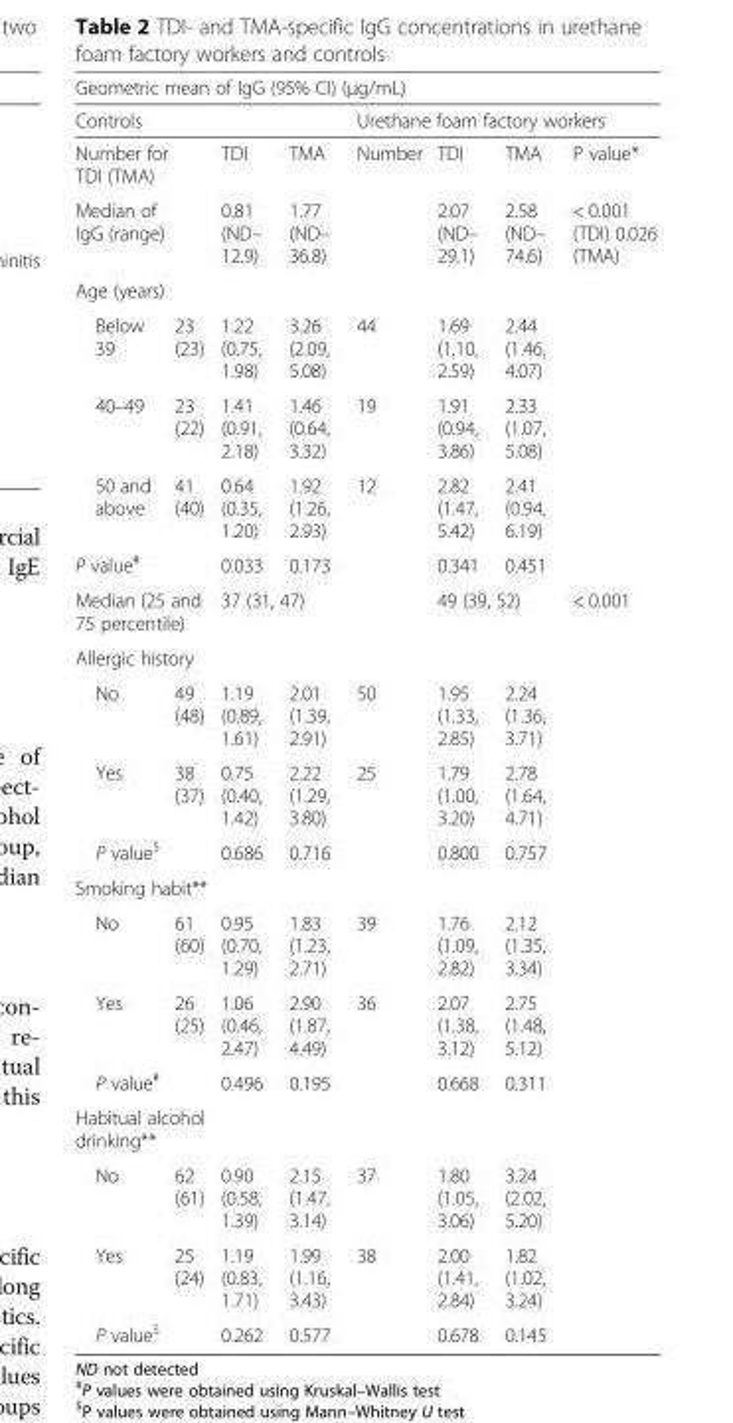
<table><thead><tr><td colspan="8">Geometric mean of IgG (95% CI) (μg/mL)</td></tr><tr><td colspan="4">Controls</td><td colspan="4">Urethane foam factory workers</td></tr></thead><tbody><tr><td colspan="2">Number for TDI (TMA)</td><td>TDI</td><td>TMA</td><td>Number</td><td>TDI</td><td>TMA</td><td>P value*</td></tr><tr><td colspan="2">Median of IgG (range)</td><td>0.81 (ND– 12.9)</td><td>1.77 (ND– 36.8)</td><td></td><td>2.07 (ND– 29.1)</td><td>2.58 (ND– 74.6)</td><td>&lt; 0.001 (TDI) 0.026 (TMA)</td></tr><tr><td colspan="8">Age (years)</td></tr><tr><td>Below 39</td><td>23 (23)</td><td>1.22 (0.75, 1.98)</td><td>3.26 (2.09, 5.08)</td><td>44</td><td>1.69 (1.10, 2.59)</td><td>2.44 (1.46, 4.07)</td><td></td></tr><tr><td>40–49</td><td>23 (22)</td><td>1.41 (0.91, 2.18)</td><td>1.46 (0.64, 3.32)</td><td>19</td><td>1.91 (0.94, 3.86)</td><td>2.33 (1.07, 5.08)</td><td></td></tr><tr><td>50 and above</td><td>41 (40)</td><td>0.64 (0.35, 1.20)</td><td>1.92 (1.26, 2.93)</td><td>12</td><td>2.82 (1.47, 5.42)</td><td>2.41 (0.94, 6.19)</td><td></td></tr><tr><td>P value<sup>#</sup></td><td></td><td>0.033</td><td>0.173</td><td></td><td>0.341</td><td>0.451</td><td></td></tr><tr><td colspan="2">Median (25 and 75 percentile)</td><td colspan="2">37 (31, 47)</td><td></td><td colspan="2">49 (39, 52)</td><td>&lt; 0.001</td></tr><tr><td colspan="8">Allergic history</td></tr><tr><td>No</td><td>49 (48)</td><td>1.19 (0.89, 1.61)</td><td>2.01 (1.39, 2.91)</td><td>50</td><td>1.95 (1.33, 2.85)</td><td>2.24 (1.36, 3.71)</td><td></td></tr><tr><td>Yes</td><td>38 (37)</td><td>0.75 (0.40, 1.42)</td><td>2.22 (1.29, 3.80)</td><td>25</td><td>1.79 (1.00, 3.20)</td><td>2.78 (1.64, 4.71)</td><td></td></tr><tr><td>P value<sup>$</sup></td><td></td><td>0.686</td><td>0.716</td><td></td><td>0.800</td><td>0.757</td><td></td></tr><tr><td colspan="8">Smoking habit**</td></tr><tr><td>No</td><td>61 (60)</td><td>0.95 (0.70, 1.29)</td><td>1.83 (1.23, 2.71)</td><td>39</td><td>1.76 (1.09, 2.82)</td><td>2.12 (1.35, 3.34)</td><td></td></tr><tr><td>Yes</td><td>26 (25)</td><td>1.06 (0.46, 2.47)</td><td>2.90 (1.87, 4.49)</td><td>36</td><td>2.07 (1.38, 3.12)</td><td>2.75 (1.48, 5.12)</td><td></td></tr><tr><td>P value<sup>#</sup></td><td></td><td>0.496</td><td>0.195</td><td></td><td>0.668</td><td>0.311</td><td></td></tr><tr><td colspan="8">Habitual alcohol drinking**</td></tr><tr><td>No</td><td>62 (61)</td><td>0.90 (0.58, 1.39)</td><td>2.15 (1.47, 3.14)</td><td>37</td><td>1.80 (1.05, 3.06)</td><td>3.24 (2.02, 5.20)</td><td></td></tr><tr><td>Yes</td><td>25 (24)</td><td>1.19 (0.83, 1.71)</td><td>1.99 (1.16, 3.43)</td><td>38</td><td>2.00 (1.41, 2.84)</td><td>1.82 (1.02, 3.24)</td><td></td></tr><tr><td>P value<sup>$</sup></td><td></td><td>0.262</td><td>0.577</td><td></td><td>0.678</td><td>0.145</td><td></td></tr></tbody></table>